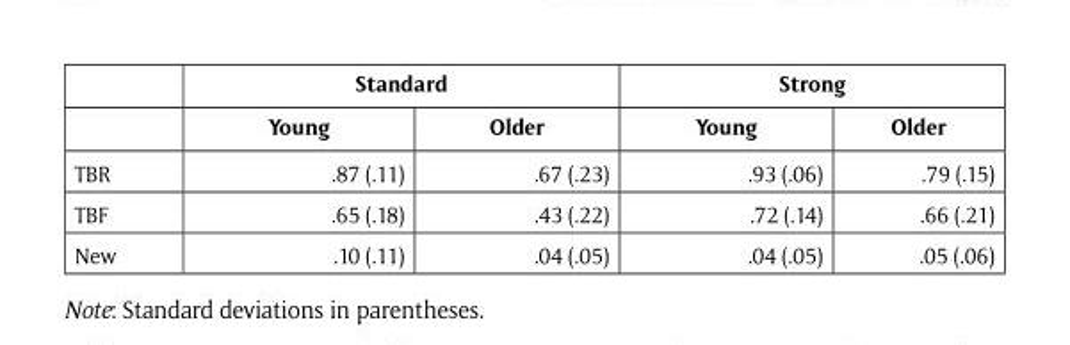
<table><thead><tr><td rowspan="2"></td><td colspan="2">Standard</td><td colspan="2">Strong</td></tr><tr><td>Young</td><td>Older</td><td>Young</td><td>Older</td></tr></thead><tbody><tr><td>TBR</td><td>.87 (.11)</td><td>.67 (.23)</td><td>.93 (.06)</td><td>.79 (.15)</td></tr><tr><td>TBF</td><td>.65 (.18)</td><td>.43 (.22)</td><td>.72 (.14)</td><td>.66 (.21)</td></tr><tr><td>New</td><td>.10 (.11)</td><td>.04 (.05)</td><td>.04 (.05)</td><td>.05 (.06)</td></tr></tbody></table>